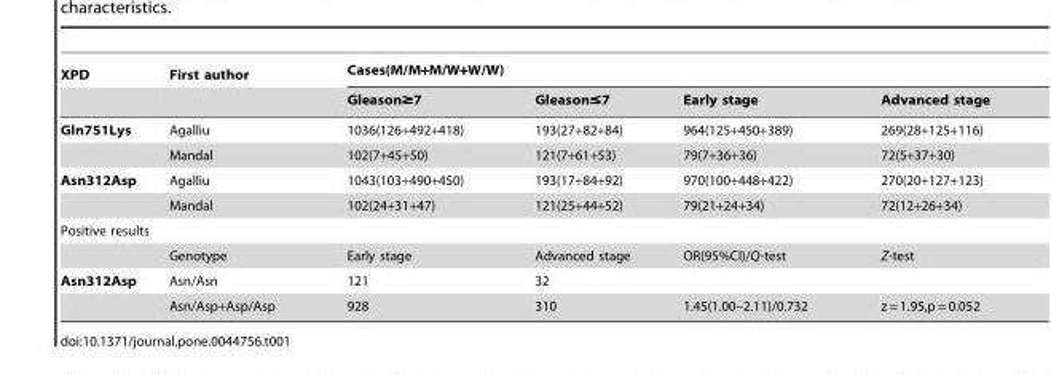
<table><thead><tr><td rowspan="2">XPD</td><td rowspan="2">First author</td><td colspan="4">Cases(M/M+M/W+W/W)</td></tr><tr><td>Gleason≥7</td><td>Gleason≤7</td><td>Early stage</td><td>Advanced stage</td></tr></thead><tbody><tr><td rowspan="2">Gln751Lys</td><td>Agalliu</td><td>1036(126+492+418)</td><td>193(27+82+84)</td><td>964(125+450+389)</td><td>269(28+125+116)</td></tr><tr><td>Mandal</td><td>102(7+45+50)</td><td>121(7+61+53)</td><td>79(7+36+36)</td><td>72(5+37+30)</td></tr><tr><td rowspan="2">Asn312Asp</td><td>Agalliu</td><td>1043(103+490+450)</td><td>193(17+84+92)</td><td>970(100+448+422)</td><td>270(20+127+123)</td></tr><tr><td>Mandal</td><td>102(24+31+47)</td><td>121(25+44+52)</td><td>79(21+24+34)</td><td>72(12+26+34)</td></tr><tr><td colspan="6">Positive results</td></tr><tr><td></td><td>Genotype</td><td>Early stage</td><td>Advanced stage</td><td>OR(95%CI)/Q-test</td><td>Z-test</td></tr><tr><td rowspan="2">Asn312Asp</td><td>Asn/Asn</td><td>121</td><td>32</td><td></td><td></td></tr><tr><td>Asn/Asp+Asp/Asp</td><td>928</td><td>310</td><td>1.45(1.00–2.11)/0.732</td><td>z = 1.95,p = 0.052</td></tr></tbody></table>